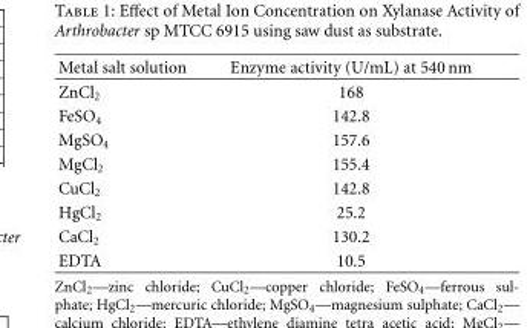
<table><thead><tr><td>Metal salt solution</td><td>Enzyme activity (U/mL) at 540 nm</td></tr></thead><tbody><tr><td>ZnCl<sub>2</sub></td><td>168</td></tr><tr><td>FeSO<sub>4</sub></td><td>142.8</td></tr><tr><td>MgSO<sub>4</sub></td><td>157.6</td></tr><tr><td>MgCl<sub>2</sub></td><td>155.4</td></tr><tr><td>CuCl<sub>2</sub></td><td>142.8</td></tr><tr><td>HgCl<sub>2</sub></td><td>25.2</td></tr><tr><td>CaCl<sub>2</sub></td><td>130.2</td></tr><tr><td>EDTA</td><td>10.5</td></tr></tbody></table>